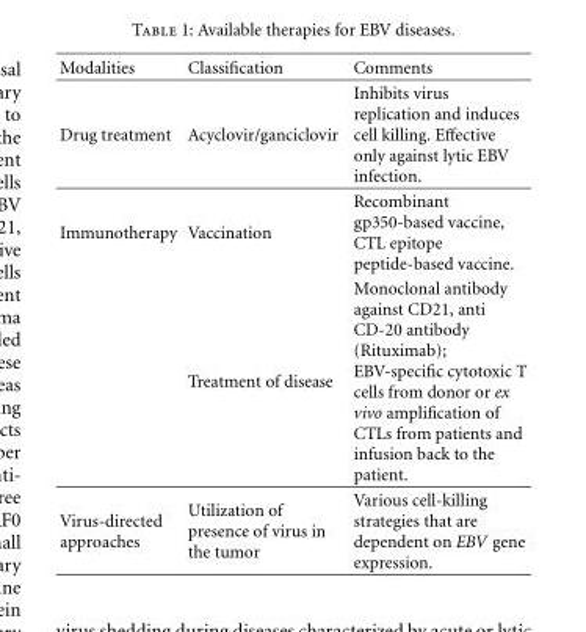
<table><thead><tr><td>Modalities</td><td>Classification</td><td>Comments</td></tr></thead><tbody><tr><td>Drug treatment</td><td>Acyclovir/ganciclovir</td><td>Inhibits virus replication and induces cell killing. Effective only against lytic EBV infection.</td></tr><tr><td rowspan="2">Immunotherapy</td><td>Vaccination</td><td>Recombinant gp350-based vaccine, CTL epitope peptide-based vaccine.</td></tr><tr><td>Treatment of disease</td><td>Monoclonal antibody against CD21, anti CD-20 antibody (Rituximab); EBV-specific cytotoxic T cells from donor or ex vivo amplification of CTLs from patients and infusion back to the patient.</td></tr><tr><td>Virus-directed approaches</td><td>Utilization of presence of virus in the tumor</td><td>Various cell-killing strategies that are dependent on EBV gene expression.</td></tr></tbody></table>